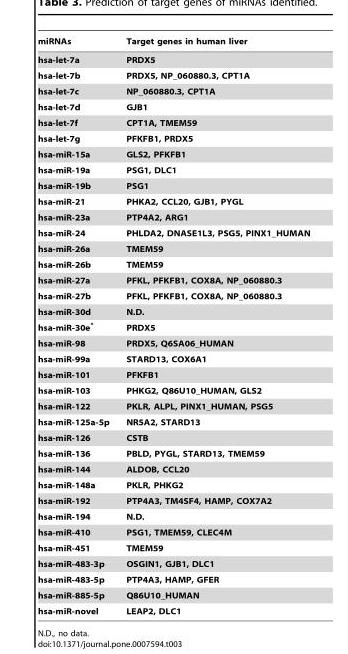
<table><thead><tr><td>miRNAs</td><td>Target genes in human liver</td></tr></thead><tbody><tr><td>hsa-let-7a</td><td>PRDX5</td></tr><tr><td>hsa-let-7b</td><td>PRDX5, NP_060880.3, CPT1A</td></tr><tr><td>hsa-let-7c</td><td>NP_060880.3, CPT1A</td></tr><tr><td>hsa-let-7d</td><td>GJB1</td></tr><tr><td>hsa-let-7f</td><td>CPT1A, TMEM59</td></tr><tr><td>hsa-let-7g</td><td>PFKFB1, PRDX5</td></tr><tr><td>hsa-miR-15a</td><td>GLS2, PFKFB1</td></tr><tr><td>hsa-miR-19a</td><td>PSG1, DLC1</td></tr><tr><td>hsa-miR-19b</td><td>PSG1</td></tr><tr><td>hsa-miR-21</td><td>PHKA2, CCL20, GJB1, PYGL</td></tr><tr><td>hsa-miR-23a</td><td>PTP4A2, ARG1</td></tr><tr><td>hsa-miR-24</td><td>PHLDA2, DNASE1L3, PSG5, PINX1_HUMAN</td></tr><tr><td>hsa-miR-26a</td><td>TMEM59</td></tr><tr><td>hsa-miR-26b</td><td>TMEM59</td></tr><tr><td>hsa-miR-27a</td><td>PFKL, PFKFB1, COX8A, NP_060880.3</td></tr><tr><td>hsa-miR-27b</td><td>PFKL, PFKFB1, COX8A, NP_060880.3</td></tr><tr><td>hsa-miR-30d</td><td>N.D.</td></tr><tr><td>hsa-miR-30e*</td><td>PRDX5</td></tr><tr><td>hsa-miR-98</td><td>PRDX5, Q6SA06_HUMAN</td></tr><tr><td>hsa-miR-99a</td><td>STARD13, COX6A1</td></tr><tr><td>hsa-miR-101</td><td>PFKFB1</td></tr><tr><td>hsa-miR-103</td><td>PHKG2, Q86U10_HUMAN, GLS2</td></tr><tr><td>hsa-miR-122</td><td>PKLR, ALPL, PINX1_HUMAN, PSG5</td></tr><tr><td>hsa-miR-125a-5p</td><td>NR5A2, STARD13</td></tr><tr><td>hsa-miR-126</td><td>CSTB</td></tr><tr><td>hsa-miR-136</td><td>PBLD, PYGL, STARD13, TMEM59</td></tr><tr><td>hsa-miR-144</td><td>ALDOB, CCL20</td></tr><tr><td>hsa-miR-148a</td><td>PKLR, PHKG2</td></tr><tr><td>hsa-miR-192</td><td>PTP4A3, TM4SF4, HAMP, COX7A2</td></tr><tr><td>hsa-miR-194</td><td>N.D.</td></tr><tr><td>hsa-miR-410</td><td>PSG1, TMEM59, CLEC4M</td></tr><tr><td>hsa-miR-451</td><td>TMEM59</td></tr><tr><td>hsa-miR-483-3p</td><td>OSGIN1, GJB1, DLC1</td></tr><tr><td>hsa-miR-483-5p</td><td>PTP4A3, HAMP, GFER</td></tr><tr><td>hsa-miR-885-5p</td><td>Q86U10_HUMAN</td></tr><tr><td>hsa-miR-novel</td><td>LEAP2, DLC1</td></tr></tbody></table>